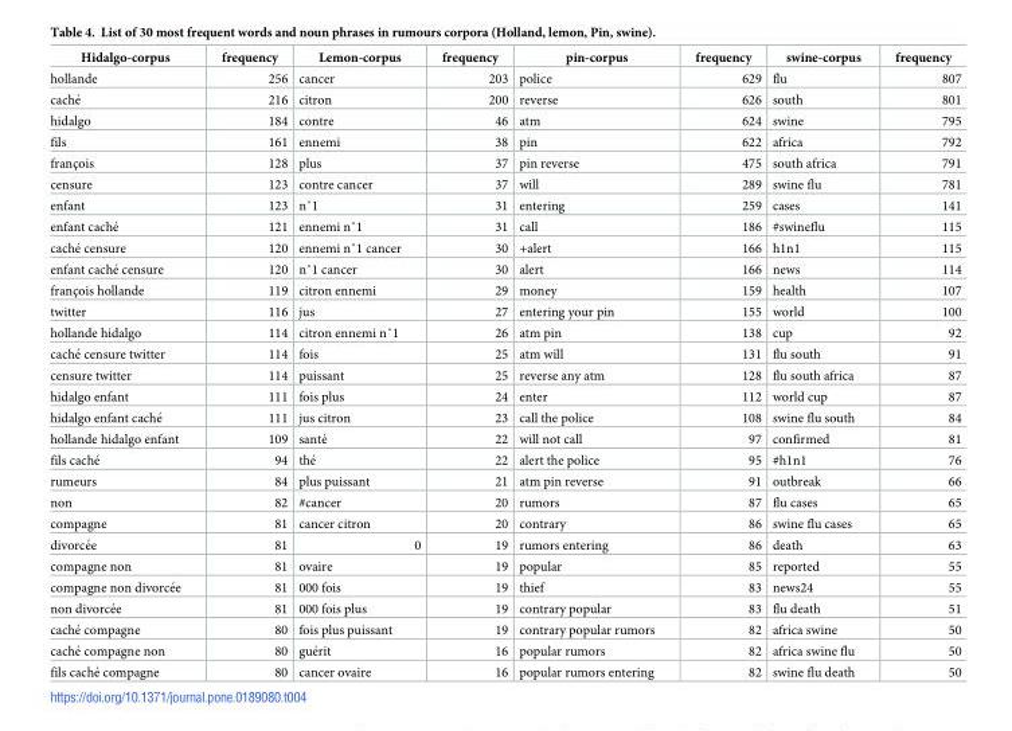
<table><thead><tr><td>Hidalgo-corpus</td><td>frequency</td><td>Lemon-corpus</td><td>frequency</td><td>pin-corpus</td><td>frequency</td><td>swine-corpus</td><td>frequency</td></tr></thead><tbody><tr><td>hollande</td><td>256</td><td>cancer</td><td>203</td><td>police</td><td>629</td><td>flu</td><td>807</td></tr><tr><td>cache´</td><td>216</td><td>citron</td><td>200</td><td>reverse</td><td>626</td><td>south</td><td>801</td></tr><tr><td>hidalgo</td><td>184</td><td>contre</td><td>46</td><td>atm</td><td>624</td><td>swine</td><td>795</td></tr><tr><td>fils</td><td>161</td><td>ennemi</td><td>38</td><td>pin</td><td>622</td><td>africa</td><td>792</td></tr><tr><td>franc¸ois</td><td>128</td><td>plus</td><td>37</td><td>pin reverse</td><td>475</td><td>south africa</td><td>791</td></tr><tr><td>censure</td><td>123</td><td>contre cancer</td><td>37</td><td>will</td><td>289</td><td>swine flu</td><td>781</td></tr><tr><td>enfant</td><td>123</td><td>n˚1</td><td>31</td><td>entering</td><td>259</td><td>cases</td><td>141</td></tr><tr><td>enfant cache´</td><td>121</td><td>ennemi n˚1</td><td>31</td><td>call</td><td>186</td><td>#swineflu</td><td>115</td></tr><tr><td>cache´ censure</td><td>120</td><td>ennemi n˚1 cancer</td><td>30</td><td>+alert</td><td>166</td><td>h1n1</td><td>115</td></tr><tr><td>enfant cache´ censure</td><td>120</td><td>n˚1 cancer</td><td>30</td><td>alert</td><td>166</td><td>news</td><td>114</td></tr><tr><td>franc¸ois hollande</td><td>119</td><td>citron ennemi</td><td>29</td><td>money</td><td>159</td><td>health</td><td>107</td></tr><tr><td>twitter</td><td>116</td><td>jus</td><td>27</td><td>entering your pin</td><td>155</td><td>world</td><td>100</td></tr><tr><td>hollande hidalgo</td><td>114</td><td>citron ennemi n˚1</td><td>26</td><td>atm pin</td><td>138</td><td>cup</td><td>92</td></tr><tr><td>cache´ censure twitter</td><td>114</td><td>fois</td><td>25</td><td>atm will</td><td>131</td><td>flu south</td><td>91</td></tr><tr><td>censure twitter</td><td>114</td><td>puissant</td><td>25</td><td>reverse any atm</td><td>128</td><td>flu south africa</td><td>87</td></tr><tr><td>hidalgo enfant</td><td>111</td><td>fois plus</td><td>24</td><td>enter</td><td>112</td><td>world cup</td><td>87</td></tr><tr><td>hidalgo enfant cache´</td><td>111</td><td>jus citron</td><td>23</td><td>call the police</td><td>108</td><td>swine flu south</td><td>84</td></tr><tr><td>hollande hidalgo enfant</td><td>109</td><td>sante´</td><td>22</td><td>will not call</td><td>97</td><td>confirmed</td><td>81</td></tr><tr><td>fils cache´</td><td>94</td><td>the´</td><td>22</td><td>alert the police</td><td>95</td><td>#h1n1</td><td>76</td></tr><tr><td>rumeurs</td><td>84</td><td>plus puissant</td><td>21</td><td>atm pin reverse</td><td>91</td><td>outbreak</td><td>66</td></tr><tr><td>non</td><td>82</td><td>#cancer</td><td>20</td><td>rumors</td><td>87</td><td>flu cases</td><td>65</td></tr><tr><td>compagne</td><td>81</td><td>cancer citron</td><td>20</td><td>contrary</td><td>86</td><td>swine flu cases</td><td>65</td></tr><tr><td>divorce´e</td><td>81</td><td>0</td><td>19</td><td>rumors entering</td><td>86</td><td>death</td><td>63</td></tr><tr><td>compagne non</td><td>81</td><td>ovaire</td><td>19</td><td>popular</td><td>85</td><td>reported</td><td>55</td></tr><tr><td>compagne non divorce´e</td><td>81</td><td>000 fois</td><td>19</td><td>thief</td><td>83</td><td>news24</td><td>55</td></tr><tr><td>non divorce´e</td><td>81</td><td>000 fois plus</td><td>19</td><td>contrary popular</td><td>83</td><td>flu death</td><td>51</td></tr><tr><td>cache´ compagne</td><td>80</td><td>fois plus puissant</td><td>19</td><td>contrary popular rumors</td><td>82</td><td>africa swine</td><td>50</td></tr><tr><td>cache´ compagne non</td><td>80</td><td>gue´rit</td><td>16</td><td>popular rumors</td><td>82</td><td>africa swine flu</td><td>50</td></tr><tr><td>fils cache´ compagne</td><td>80</td><td>cancer ovaire</td><td>16</td><td>popular rumors entering</td><td>82</td><td>swine flu death</td><td>50</td></tr></tbody></table>